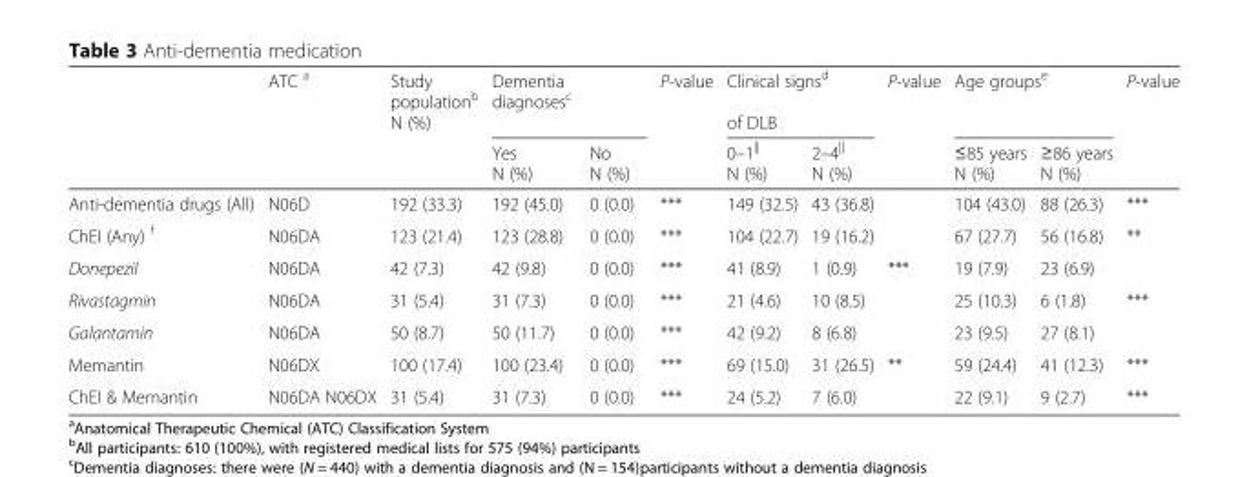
<table><thead><tr><td rowspan="2"></td><td rowspan="2">ATC <sup>a</sup></td><td rowspan="2">Study population<sup>b</sup> N (%)</td><td colspan="2">Dementia diagnoses<sup>c</sup></td><td rowspan="2">P-value</td><td colspan="2">Clinical signs<sup>d</sup> of DLB</td><td rowspan="2">P-value</td><td colspan="2">Age groups<sup>e</sup></td><td rowspan="2">P-value</td></tr><tr><td>Yes N (%)</td><td>No N (%)</td><td>0–1<sup>||</sup> N (%)</td><td>2–4<sup>||</sup> N (%)</td><td>≤85 years N (%)</td><td>≥86 years N (%)</td></tr></thead><tbody><tr><td>Anti-dementia drugs (All)</td><td>N06D</td><td>192 (33.3)</td><td>192 (45.0)</td><td>0 (0.0)</td><td>***</td><td>149 (32.5)</td><td>43 (36.8)</td><td></td><td>104 (43.0)</td><td>88 (26.3)</td><td>***</td></tr><tr><td>ChEI (Any) <sup>f</sup></td><td>N06DA</td><td>123 (21.4)</td><td>123 (28.8)</td><td>0 (0.0)</td><td>***</td><td>104 (22.7)</td><td>19 (16.2)</td><td></td><td>67 (27.7)</td><td>56 (16.8)</td><td>**</td></tr><tr><td>Donepezil</td><td>N06DA</td><td>42 (7.3)</td><td>42 (9.8)</td><td>0 (0.0)</td><td>***</td><td>41 (8.9)</td><td>1 (0.9)</td><td>***</td><td>19 (7.9)</td><td>23 (6.9)</td><td></td></tr><tr><td>Rivastagmin</td><td>N06DA</td><td>31 (5.4)</td><td>31 (7.3)</td><td>0 (0.0)</td><td>***</td><td>21 (4.6)</td><td>10 (8.5)</td><td></td><td>25 (10.3)</td><td>6 (1.8)</td><td>***</td></tr><tr><td>Galantamin</td><td>N06DA</td><td>50 (8.7)</td><td>50 (11.7)</td><td>0 (0.0)</td><td>***</td><td>42 (9.2)</td><td>8 (6.8)</td><td></td><td>23 (9.5)</td><td>27 (8.1)</td><td></td></tr><tr><td>Memantin</td><td>N06DX</td><td>100 (17.4)</td><td>100 (23.4)</td><td>0 (0.0)</td><td>***</td><td>69 (15.0)</td><td>31 (26.5)</td><td>**</td><td>59 (24.4)</td><td>41 (12.3)</td><td>***</td></tr><tr><td>ChEI &amp; Memantin</td><td>N06DA N06DX</td><td>31 (5.4)</td><td>31 (7.3)</td><td>0 (0.0)</td><td>***</td><td>24 (5.2)</td><td>7 (6.0)</td><td></td><td>22 (9.1)</td><td>9 (2.7)</td><td>***</td></tr></tbody></table>